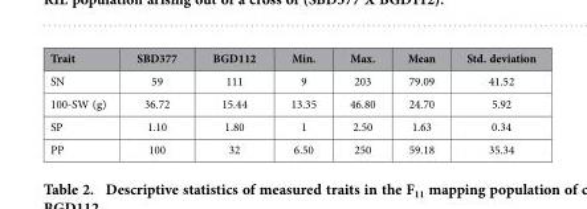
<table><thead><tr><td>Trait</td><td>SBD377</td><td>BGD112</td><td>Min.</td><td>Max.</td><td>Mean</td><td>Std. deviation</td></tr></thead><tbody><tr><td>SN</td><td>59</td><td>111</td><td>9</td><td>203</td><td>79.09</td><td>41.52</td></tr><tr><td>100-SW (g)</td><td>36.72</td><td>15.44</td><td>13.35</td><td>46.80</td><td>24.70</td><td>5.92</td></tr><tr><td>SP</td><td>1.10</td><td>1.80</td><td>1</td><td>2.50</td><td>1.63</td><td>0.34</td></tr><tr><td>PP</td><td>100</td><td>32</td><td>6.50</td><td>250</td><td>59.18</td><td>35.34</td></tr></tbody></table>